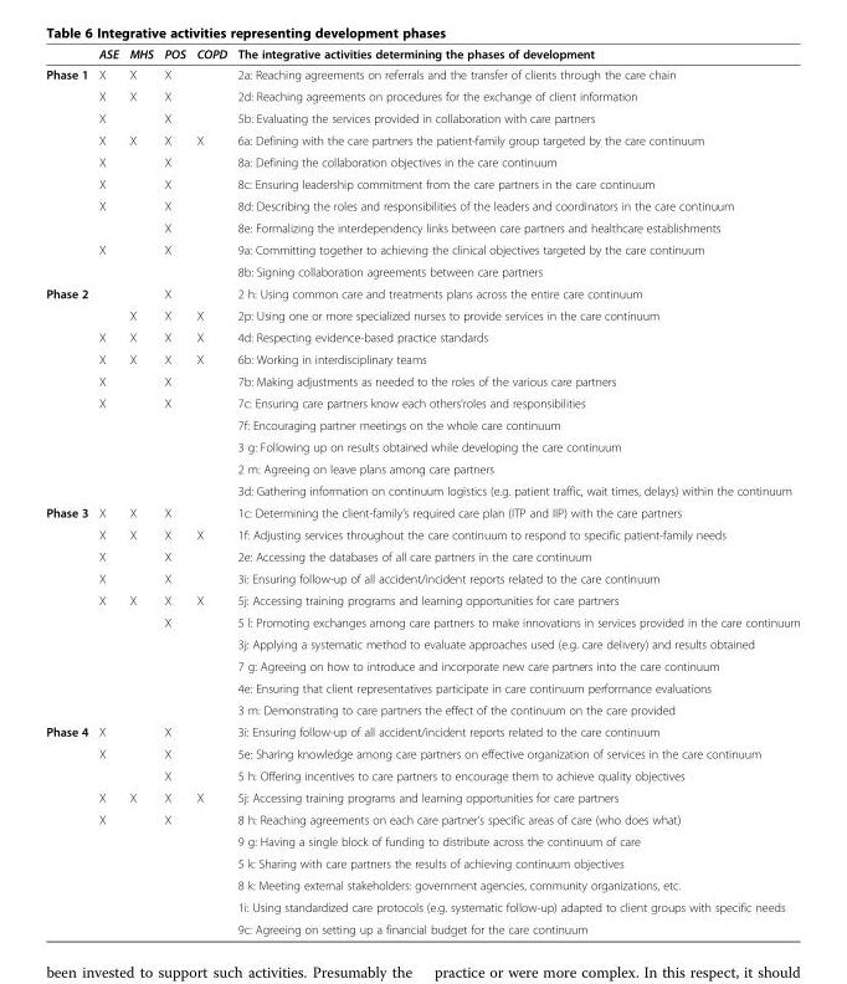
<table><thead><tr><td></td><td>ASE</td><td>MHS</td><td>POS</td><td>COPD</td><td>The integrative activities determining the phases of development</td></tr></thead><tbody><tr><td rowspan="10">Phase 1</td><td>X</td><td>X</td><td>X</td><td></td><td>2a: Reaching agreements on referrals and the transfer of clients through the care chain</td></tr><tr><td>X</td><td>X</td><td>X</td><td></td><td>2d: Reaching agreements on procedures for the exchange of client information</td></tr><tr><td>X</td><td></td><td>X</td><td></td><td>5b: Evaluating the services provided in collaboration with care partners</td></tr><tr><td>X</td><td>X</td><td>X</td><td>X</td><td>6a: Defining with the care partners the patient-family group targeted by the care continuum</td></tr><tr><td>X</td><td></td><td>X</td><td></td><td>8a: Defining the collaboration objectives in the care continuum</td></tr><tr><td>X</td><td></td><td>X</td><td></td><td>8c: Ensuring leadership commitment from the care partners in the care continuum</td></tr><tr><td>X</td><td></td><td>X</td><td></td><td>8d: Describing the roles and responsibilities of the leaders and coordinators in the care continuum</td></tr><tr><td></td><td></td><td>X</td><td></td><td>8e: Formalizing the interdependency links between care partners and healthcare establishments</td></tr><tr><td>X</td><td></td><td>X</td><td></td><td>9a: Committing together to achieving the clinical objectives targeted by the care continuum</td></tr><tr><td></td><td></td><td></td><td></td><td>8b: Signing collaboration agreements between care partners</td></tr><tr><td rowspan="10">Phase 2</td><td></td><td></td><td>X</td><td></td><td>2 h: Using common care and treatments plans across the entire care continuum</td></tr><tr><td></td><td>X</td><td>X</td><td>X</td><td>2p: Using one or more specialized nurses to provide services in the care continuum</td></tr><tr><td>X</td><td>X</td><td>X</td><td>X</td><td>4d: Respecting evidence-based practice standards</td></tr><tr><td>X</td><td>X</td><td>X</td><td>X</td><td>6b: Working in interdisciplinary teams</td></tr><tr><td>X</td><td></td><td>X</td><td></td><td>7b: Making adjustments as needed to the roles of the various care partners</td></tr><tr><td>X</td><td></td><td>X</td><td></td><td>7c: Ensuring care partners know each others’roles and responsibilities</td></tr><tr><td></td><td></td><td></td><td></td><td>7f: Encouraging partner meetings on the whole care continuum</td></tr><tr><td></td><td></td><td></td><td></td><td>3 g: Following up on results obtained while developing the care continuum</td></tr><tr><td></td><td></td><td></td><td></td><td>2 m: Agreeing on leave plans among care partners</td></tr><tr><td></td><td></td><td></td><td></td><td>3d: Gathering information on continuum logistics (e.g. patient traffic, wait times, delays) within the continuum</td></tr><tr><td rowspan="10">Phase 3</td><td>X</td><td>X</td><td>X</td><td></td><td>1c: Determining the client-family’s required care plan (ITP and IIP) with the care partners</td></tr><tr><td>X</td><td>X</td><td>X</td><td>X</td><td>1f: Adjusting services throughout the care continuum to respond to specific patient-family needs</td></tr><tr><td>X</td><td></td><td>X</td><td></td><td>2e: Accessing the databases of all care partners in the care continuum</td></tr><tr><td>X</td><td></td><td>X</td><td></td><td>3i: Ensuring follow-up of all accident/incident reports related to the care continuum</td></tr><tr><td>X</td><td>X</td><td>X</td><td>X</td><td>5j: Accessing training programs and learning opportunities for care partners</td></tr><tr><td></td><td></td><td>X</td><td></td><td>5 l: Promoting exchanges among care partners to make innovations in services provided in the care continuum</td></tr><tr><td></td><td></td><td></td><td></td><td>3j: Applying a systematic method to evaluate approaches used (e.g. care delivery) and results obtained</td></tr><tr><td></td><td></td><td></td><td></td><td>7 g: Agreeing on how to introduce and incorporate new care partners into the care continuum</td></tr><tr><td></td><td></td><td></td><td></td><td>4e: Ensuring that client representatives participate in care continuum performance evaluations</td></tr><tr><td></td><td></td><td></td><td></td><td>3 m: Demonstrating to care partners the effect of the continuum on the care provided</td></tr><tr><td rowspan="10">Phase 4</td><td>X</td><td></td><td>X</td><td></td><td>3i: Ensuring follow-up of all accident/incident reports related to the care continuum</td></tr><tr><td>X</td><td></td><td>X</td><td></td><td>5e: Sharing knowledge among care partners on effective organization of services in the care continuum</td></tr><tr><td></td><td></td><td>X</td><td></td><td>5 h: Offering incentives to care partners to encourage them to achieve quality objectives</td></tr><tr><td>X</td><td>X</td><td>X</td><td>X</td><td>5j: Accessing training programs and learning opportunities for care partners</td></tr><tr><td>X</td><td></td><td>X</td><td></td><td>8 h: Reaching agreements on each care partner’s specific areas of care (who does what)</td></tr><tr><td></td><td></td><td></td><td></td><td>9 g: Having a single block of funding to distribute across the continuum of care</td></tr><tr><td></td><td></td><td></td><td></td><td>5 k: Sharing with care partners the results of achieving continuum objectives</td></tr><tr><td></td><td></td><td></td><td></td><td>8 k: Meeting external stakeholders: government agencies, community organizations, etc.</td></tr><tr><td></td><td></td><td></td><td></td><td>1i: Using standardized care protocols (e.g. systematic follow-up) adapted to client groups with specific needs</td></tr><tr><td></td><td></td><td></td><td></td><td>9c: Agreeing on setting up a financial budget for the care continuum</td></tr></tbody></table>